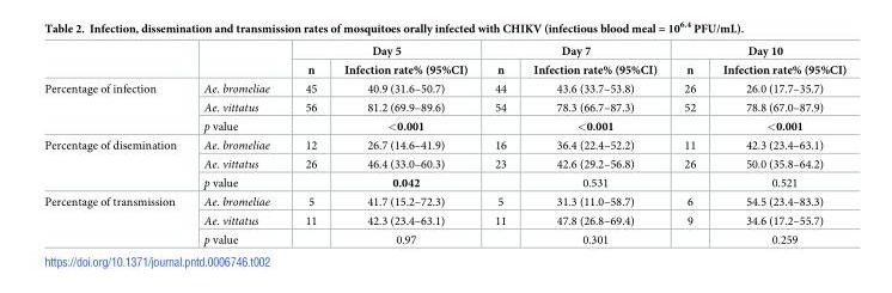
<table><thead><tr><td rowspan="2"></td><td rowspan="2"></td><td colspan="2">Day 5</td><td colspan="2">Day 7</td><td colspan="2">Day 10</td></tr><tr><td>n</td><td>Infection rate% (95%CI)</td><td>n</td><td>Infection rate% (95%CI)</td><td>n</td><td>Infection rate% (95%CI)</td></tr></thead><tbody><tr><td rowspan="3">Percentage of infection</td><td>Ae. bromeliae</td><td>45</td><td>40.9 (31.6–50.7)</td><td>44</td><td>43.6 (33.7–53.8)</td><td>26</td><td>26.0 (17.7–35.7)</td></tr><tr><td>Ae. vittatus</td><td>56</td><td>81.2 (69.9–89.6)</td><td>54</td><td>78.3 (66.7–87.3)</td><td>52</td><td>78.8 (67.0–87.9)</td></tr><tr><td>p value</td><td></td><td>&lt;0.001</td><td></td><td>&lt;0.001</td><td></td><td>&lt;0.001</td></tr><tr><td rowspan="3">Percentage of disemination</td><td>Ae. bromeliae</td><td>12</td><td>26.7 (14.6–41.9)</td><td>16</td><td>36.4 (22.4–52.2)</td><td>11</td><td>42.3 (23.4–63.1)</td></tr><tr><td>Ae. vittatus</td><td>26</td><td>46.4 (33.0–60.3)</td><td>23</td><td>42.6 (29.2–56.8)</td><td>26</td><td>50.0 (35.8–64.2)</td></tr><tr><td>p value</td><td></td><td>0.042</td><td></td><td>0.531</td><td></td><td>0.521</td></tr><tr><td rowspan="3">Percentage of transmission</td><td>Ae. bromeliae</td><td>5</td><td>41.7 (15.2–72.3)</td><td>5</td><td>31.3 (11.0–58.7)</td><td>6</td><td>54.5 (23.4–83.3)</td></tr><tr><td>Ae. vittatus</td><td>11</td><td>42.3 (23.4–63.1)</td><td>11</td><td>47.8 (26.8–69.4)</td><td>9</td><td>34.6 (17.2–55.7)</td></tr><tr><td>p value</td><td></td><td>0.97</td><td></td><td>0.301</td><td></td><td>0.259</td></tr></tbody></table>